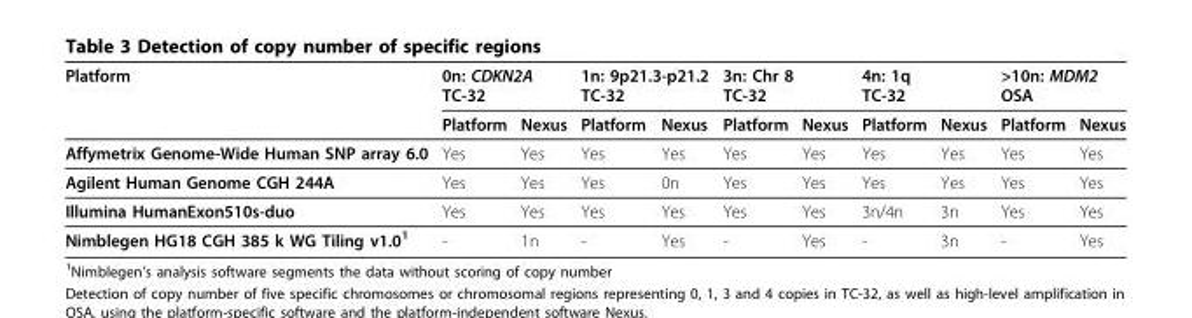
<table><thead><tr><td rowspan="2">Platform</td><td colspan="2">0n: CDKN2A TC-32</td><td colspan="2">1n: 9p21.3-p21.2 TC-32</td><td colspan="2">3n: Chr 8 TC-32</td><td colspan="2">4n: 1q TC-32</td><td colspan="2">&gt;10n: MDM2 OSA</td></tr><tr><td>Platform</td><td>Nexus</td><td>Platform</td><td>Nexus</td><td>Platform</td><td>Nexus</td><td>Platform</td><td>Nexus</td><td>Platform</td><td>Nexus</td></tr></thead><tbody><tr><td>Affymetrix Genome-Wide Human SNP array 6.0</td><td>Yes</td><td>Yes</td><td>Yes</td><td>Yes</td><td>Yes</td><td>Yes</td><td>Yes</td><td>Yes</td><td>Yes</td><td>Yes</td></tr><tr><td>Agilent Human Genome CGH 244A</td><td>Yes</td><td>Yes</td><td>Yes</td><td>0n</td><td>Yes</td><td>Yes</td><td>Yes</td><td>Yes</td><td>Yes</td><td>Yes</td></tr><tr><td>Illumina HumanExon510s-duo</td><td>Yes</td><td>Yes</td><td>Yes</td><td>Yes</td><td>Yes</td><td>Yes</td><td>3n/4n</td><td>3n</td><td>Yes</td><td>Yes</td></tr><tr><td>Nimblegen HG18 CGH 385 k WG Tiling v1.0<sup>1</sup></td><td>-</td><td>1n</td><td>-</td><td>Yes</td><td>-</td><td>Yes</td><td>-</td><td>3n</td><td>-</td><td>Yes</td></tr></tbody></table>